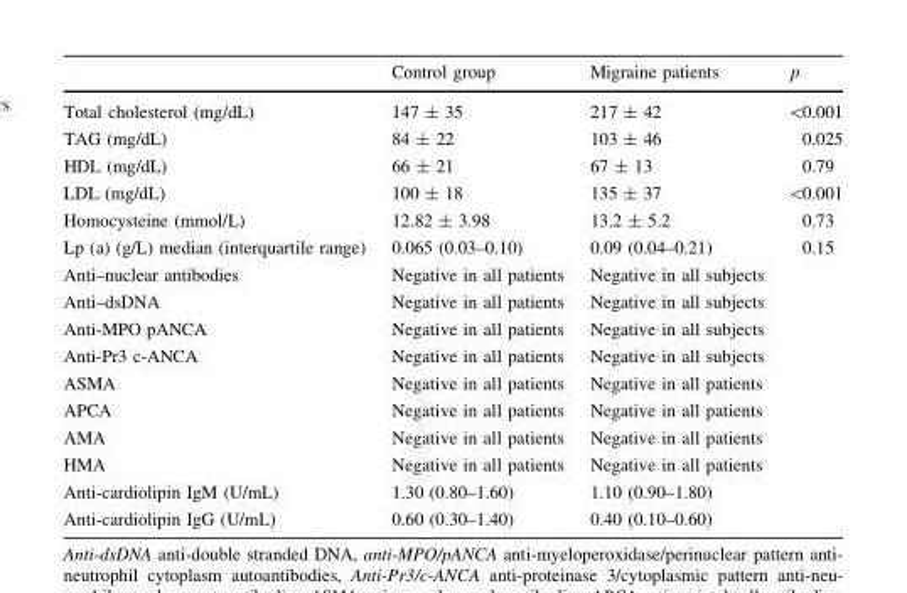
<table><thead><tr><td></td><td>Control group</td><td>Migraine patients</td><td>p</td></tr></thead><tbody><tr><td>Total cholesterol (mg/dL)</td><td>147 ± 35</td><td>217 ± 42</td><td>&lt;0.001</td></tr><tr><td>TAG (mg/dL)</td><td>84 ± 22</td><td>103 ± 46</td><td>0.025</td></tr><tr><td>HDL (mg/dL)</td><td>66 ± 21</td><td>67 ± 13</td><td>0.79</td></tr><tr><td>LDL (mg/dL)</td><td>100 ± 18</td><td>135 ± 37</td><td>&lt;0.001</td></tr><tr><td>Homocysteine (mmol/L)</td><td>12.82 ± 3.98</td><td>13.2 ± 5.2</td><td>0.73</td></tr><tr><td>Lp (a) (g/L) median (interquartile range)</td><td>0.065 (0.03–0.10)</td><td>0.09 (0.04–0.21)</td><td>0.15</td></tr><tr><td>Anti–nuclear antibodies Anti–dsDNA Anti-MPO pANCA Anti-Pr3 c-ANCA ASMA APCA AMA HMA Anti-cardiolipin IgM (U/mL) Anti-cardiolipin IgG (U/mL)</td><td>Negative in all patients Negative in all patients Negative in all patients Negative in all patients Negative in all patients Negative in all patients Negative in all patients Negative in all patients 1.30 (0.80–1.60) 0.60 (0.30–1.40)</td><td>Negative in all subjects Negative in all subjects Negative in all subjects Negative in all subjects Negative in all patients Negative in all patients Negative in all patients Negative in all patients 1.10 (0.90–1.80) 0.40 (0.10–0.60)</td><td></td></tr></tbody></table>